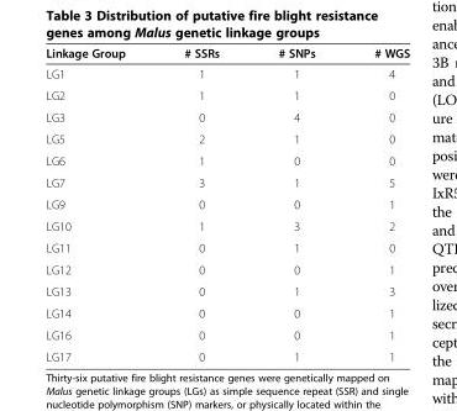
<table><thead><tr><td>Linkage Group</td><td># SSRs</td><td># SNPs</td><td># WGS</td></tr></thead><tbody><tr><td>LG1</td><td>1</td><td>1</td><td>4</td></tr><tr><td>LG2</td><td>1</td><td>1</td><td>0</td></tr><tr><td>LG3</td><td>0</td><td>4</td><td>0</td></tr><tr><td>LG5</td><td>2</td><td>1</td><td>0</td></tr><tr><td>LG6</td><td>1</td><td>0</td><td>0</td></tr><tr><td>LG7</td><td>3</td><td>1</td><td>5</td></tr><tr><td>LG9</td><td>0</td><td>0</td><td>1</td></tr><tr><td>LG10</td><td>1</td><td>3</td><td>2</td></tr><tr><td>LG11</td><td>0</td><td>1</td><td>0</td></tr><tr><td>LG12</td><td>0</td><td>0</td><td>1</td></tr><tr><td>LG13</td><td>0</td><td>1</td><td>3</td></tr><tr><td>LG14</td><td>0</td><td>0</td><td>1</td></tr><tr><td>LG16</td><td>0</td><td>0</td><td>1</td></tr><tr><td>LG17</td><td>0</td><td>1</td><td>1</td></tr></tbody></table>